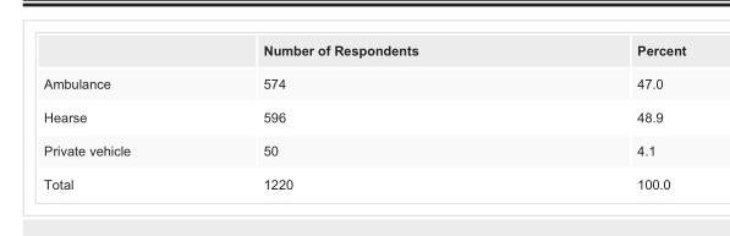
<table><thead><tr><td></td><td>Number of Respondents</td><td>Percent</td></tr></thead><tbody><tr><td>Ambulance</td><td>574</td><td>47.0</td></tr><tr><td>Hearse</td><td>596</td><td>48.9</td></tr><tr><td>Private vehicle</td><td>50</td><td>4.1</td></tr><tr><td>Total</td><td>1220</td><td>100.0</td></tr></tbody></table>